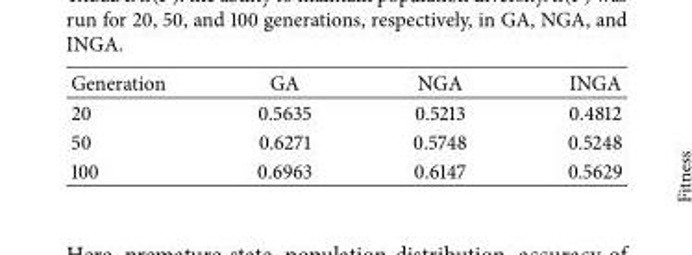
<table><thead><tr><td>Generation</td><td>GA</td><td>NGA</td><td>INGA</td></tr></thead><tbody><tr><td>20</td><td>0.5635</td><td>0.5213</td><td>0.4812</td></tr><tr><td>50</td><td>0.6271</td><td>0.5748</td><td>0.5248</td></tr><tr><td>100</td><td>0.6963</td><td>0.6147</td><td>0.5629</td></tr></tbody></table>